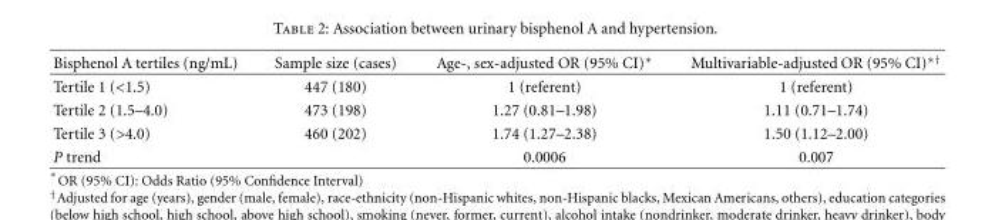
<table><thead><tr><td>Bisphenol A tertiles (ng/mL)</td><td>Sample size (cases)</td><td>Age-, sex-adjusted OR (95% CI)∗</td><td>Multivariable-adjusted OR (95% CI)<sup>∗†</sup></td></tr></thead><tbody><tr><td>Tertile 1 (&lt;1.5)</td><td>447 (180)</td><td>1 (referent)</td><td>1 (referent)</td></tr><tr><td>Tertile 2 (1.5–4.0)</td><td>473 (198)</td><td>1.27 (0.81–1.98)</td><td>1.11 (0.71–1.74)</td></tr><tr><td>Tertile 3 (&gt;4.0)</td><td>460 (202)</td><td>1.74 (1.27–2.38)</td><td>1.50 (1.12–2.00)</td></tr><tr><td>P trend</td><td></td><td>0.0006</td><td>0.007</td></tr></tbody></table>